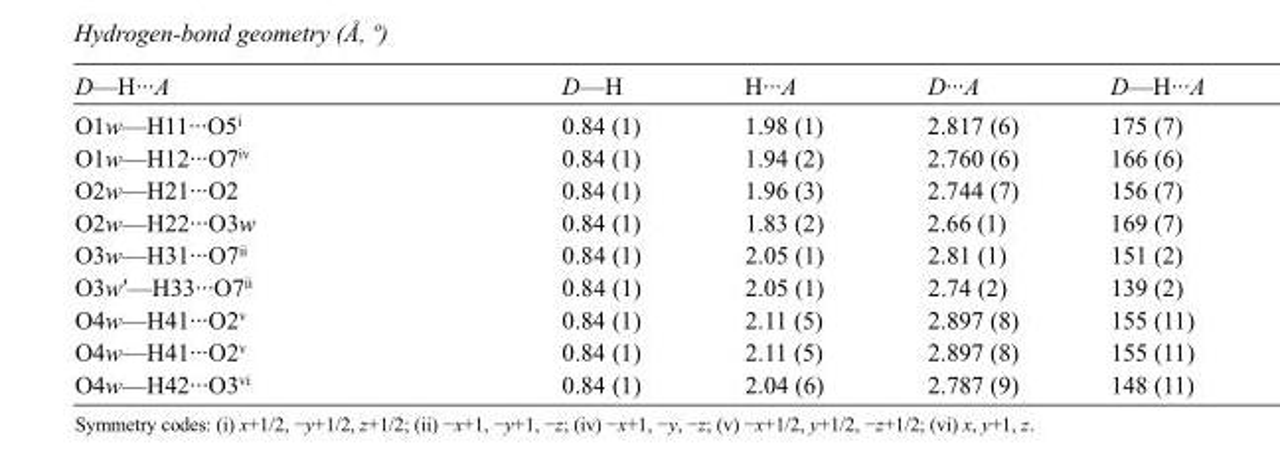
<table><tbody><tr><td>D—H···A</td><td>D—H</td><td>H···A</td><td>D···A</td><td>D—H···A</td></tr><tr><td>O1w—H11···O5<sup>i</sup></td><td>0.84 (1)</td><td>1.98 (1)</td><td>2.817 (6)</td><td>175 (7)</td></tr><tr><td>O1w—H12···O7<sup>iv</sup></td><td>0.84 (1)</td><td>1.94 (2)</td><td>2.760 (6)</td><td>166 (6)</td></tr><tr><td>O2w—H21···O2</td><td>0.84 (1)</td><td>1.96 (3)</td><td>2.744 (7)</td><td>156 (7)</td></tr><tr><td>O2w—H22···O3w</td><td>0.84 (1)</td><td>1.83 (2)</td><td>2.66 (1)</td><td>169 (7)</td></tr><tr><td>O3w—H31···O7<sup>ii</sup></td><td>0.84 (1)</td><td>2.05 (1)</td><td>2.81 (1)</td><td>151 (2)</td></tr><tr><td>O3w′—H33···O7<sup>ii</sup></td><td>0.84 (1)</td><td>2.05 (1)</td><td>2.74 (2)</td><td>139 (2)</td></tr><tr><td>O4w—H41···O2<sup>v</sup></td><td>0.84 (1)</td><td>2.11 (5)</td><td>2.897 (8)</td><td>155 (11)</td></tr><tr><td>O4w—H41···O2<sup>v</sup></td><td>0.84 (1)</td><td>2.11 (5)</td><td>2.897 (8)</td><td>155 (11)</td></tr><tr><td>O4w—H42···O3<sup>vi</sup></td><td>0.84 (1)</td><td>2.04 (6)</td><td>2.787 (9)</td><td>148 (11)</td></tr></tbody></table>